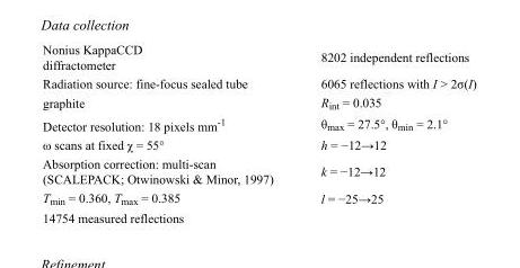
<table><tbody><tr><td>Nonius KappaCCD diffractometer</td><td>8202 independent reflections</td></tr><tr><td>Radiation source: fine-focus sealed tube</td><td>6065 reflections with I &gt; 2σ(I)</td></tr><tr><td>graphite</td><td>R<sub>int</sub> = 0.035</td></tr><tr><td>Detector resolution: 18 pixels mm<sup>-1</sup></td><td>θ<sub>max</sub> = 27.5°, θ<sub>min</sub> = 2.1°</td></tr><tr><td>ω scans at fixed χ = 55°</td><td>h = −12→12</td></tr><tr><td>Absorption correction: multi-scan (SCALEPACK; Otwinowski &amp; Minor, 1997)</td><td>k = −12→12</td></tr><tr><td>T<sub>min</sub> = 0.360, T<sub>max</sub> = 0.385</td><td>l = −25→25</td></tr><tr><td>14754 measured reflections</td><td></td></tr></tbody></table>